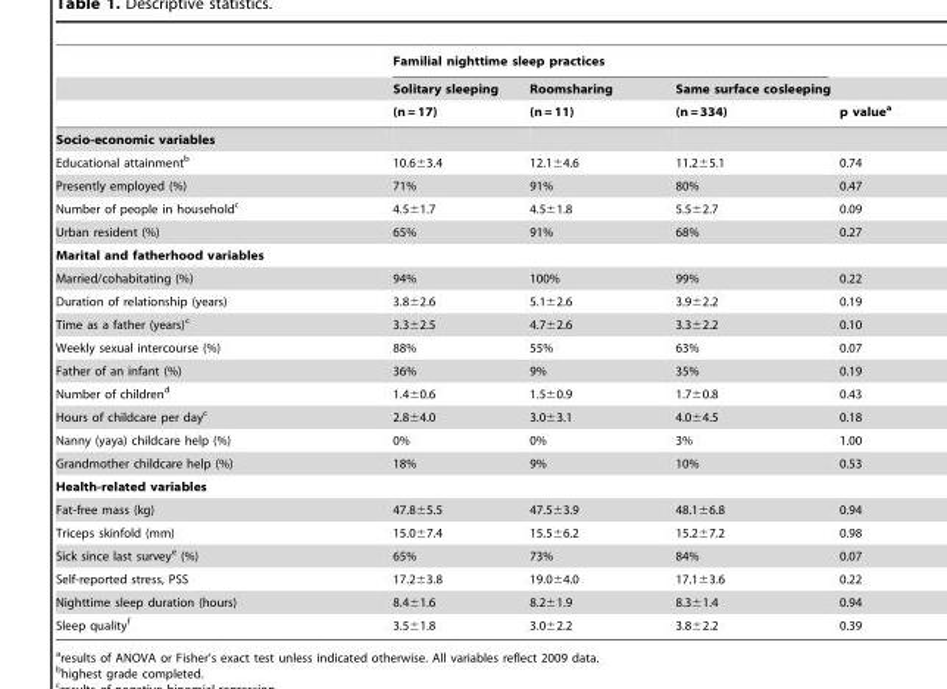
<table><thead><tr><td rowspan="3"></td><td colspan="3">Familial nighttime sleep practices</td><td rowspan="3">p value<sup>a</sup></td></tr><tr><td rowspan="2">Solitary sleeping (n = 17)</td><td rowspan="2">Roomsharing (n = 11)</td><td rowspan="2">Same surface cosleeping (n = 334)</td></tr><tr></tr></thead><tbody><tr><td colspan="5">Socio-economic variables</td></tr><tr><td>Educational attainment<sup>b</sup></td><td>10.6±3.4</td><td>12.1±4.6</td><td>11.2±5.1</td><td>0.74</td></tr><tr><td>Presently employed (%)</td><td>71%</td><td>91%</td><td>80%</td><td>0.47</td></tr><tr><td>Number of people in household<sup>c</sup></td><td>4.5±1.7</td><td>4.5±1.8</td><td>5.5±2.7</td><td>0.09</td></tr><tr><td>Urban resident (%)</td><td>65%</td><td>91%</td><td>68%</td><td>0.27</td></tr><tr><td colspan="5">Marital and fatherhood variables</td></tr><tr><td>Married/cohabitating (%)</td><td>94%</td><td>100%</td><td>99%</td><td>0.22</td></tr><tr><td>Duration of relationship (years)</td><td>3.8±2.6</td><td>5.1±2.6</td><td>3.9±2.2</td><td>0.19</td></tr><tr><td>Time as a father (years)<sup>c</sup></td><td>3.3±2.5</td><td>4.7±2.6</td><td>3.3±2.2</td><td>0.10</td></tr><tr><td>Weekly sexual intercourse (%)</td><td>88%</td><td>55%</td><td>63%</td><td>0.07</td></tr><tr><td>Father of an infant (%)</td><td>36%</td><td>9%</td><td>35%</td><td>0.19</td></tr><tr><td>Number of children<sup>d</sup></td><td>1.4±0.6</td><td>1.5±0.9</td><td>1.7±0.8</td><td>0.43</td></tr><tr><td>Hours of childcare per day<sup>c</sup></td><td>2.8±4.0</td><td>3.0±3.1</td><td>4.0±4.5</td><td>0.18</td></tr><tr><td>Nanny (yaya) childcare help (%)</td><td>0%</td><td>0%</td><td>3%</td><td>1.00</td></tr><tr><td>Grandmother childcare help (%)</td><td>18%</td><td>9%</td><td>10%</td><td>0.53</td></tr><tr><td colspan="5">Health-related variables</td></tr><tr><td>Fat-free mass (kg)</td><td>47.8±5.5</td><td>47.5±3.9</td><td>48.1±6.8</td><td>0.94</td></tr><tr><td>Triceps skinfold (mm)</td><td>15.0±7.4</td><td>15.5±6.2</td><td>15.2±7.2</td><td>0.98</td></tr><tr><td>Sick since last survey<sup>e</sup> (%)</td><td>65%</td><td>73%</td><td>84%</td><td>0.07</td></tr><tr><td>Self-reported stress, PSS</td><td>17.2±3.8</td><td>19.0±4.0</td><td>17.1±3.6</td><td>0.22</td></tr><tr><td>Nighttime sleep duration (hours)</td><td>8.4±1.6</td><td>8.2±1.9</td><td>8.3±1.4</td><td>0.94</td></tr><tr><td>Sleep quality<sup>f</sup></td><td>3.5±1.8</td><td>3.0±2.2</td><td>3.8±2.2</td><td>0.39</td></tr></tbody></table>